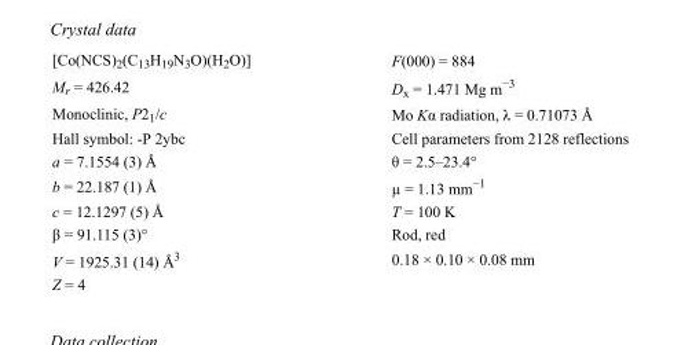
<table><tbody><tr><td>[Co(NCS)<sub>2</sub>(C<sub>13</sub>H<sub>19</sub>N<sub>3</sub>O)(H<sub>2</sub>O)]</td><td>F(000) = 884</td></tr><tr><td>M<sub>r</sub> = 426.42</td><td>D<sub>x</sub> = 1.471 Mg m<sup>−3</sup></td></tr><tr><td>Monoclinic, P2<sub>1</sub>/c</td><td>Mo Kα radiation, λ = 0.71073 Å</td></tr><tr><td>Hall symbol: -P 2ybc</td><td>Cell parameters from 2128 reflections</td></tr><tr><td>a = 7.1554 (3) Å</td><td>θ = 2.5–23.4°</td></tr><tr><td>b = 22.187 (1) Å</td><td>µ = 1.13 mm<sup>−1</sup></td></tr><tr><td>c = 12.1297 (5) Å</td><td>T = 100 K</td></tr><tr><td>β = 91.115 (3)°</td><td>Rod, red</td></tr><tr><td>V = 1925.31 (14) Å<sup>3</sup></td><td>0.18 × 0.10 × 0.08 mm</td></tr><tr><td>Z = 4</td><td></td></tr></tbody></table>